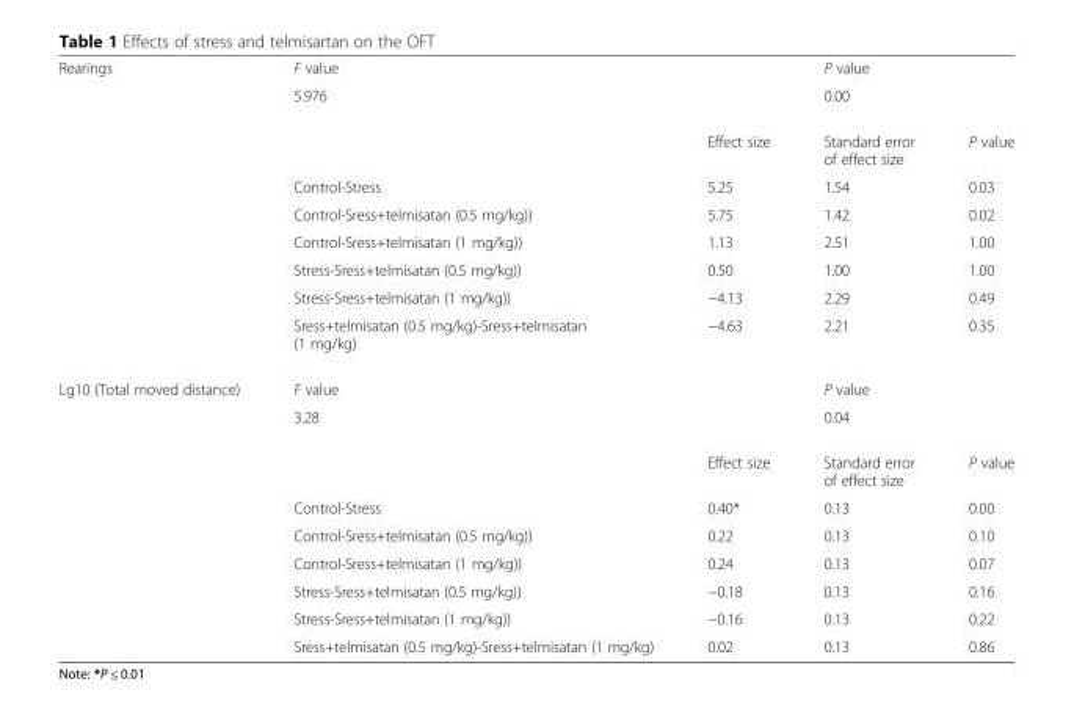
<table><tbody><tr><td rowspan="9">Rearings</td><td colspan="2">F value</td><td colspan="2">P value</td></tr><tr><td>5.976</td><td></td><td colspan="2">0.00</td></tr><tr><td></td><td>Effect size</td><td>Standard error of effect size</td><td>P value</td></tr><tr><td>Control-Stress</td><td>5.25</td><td>1.54</td><td>0.03</td></tr><tr><td>Control-Sress+telmisatan (0.5 mg/kg))</td><td>5.75</td><td>1.42</td><td>0.02</td></tr><tr><td>Control-Sress+telmisatan (1 mg/kg))</td><td>1.13</td><td>2.51</td><td>1.00</td></tr><tr><td>Stress-Sress+telmisatan (0.5 mg/kg))</td><td>0.50</td><td>1.00</td><td>1.00</td></tr><tr><td>Stress-Sress+telmisatan (1 mg/kg))</td><td>−4.13</td><td>2.29</td><td>0.49</td></tr><tr><td>Sress+telmisatan (0.5 mg/kg)-Sress+telmisatan (1 mg/kg)</td><td>−4.63</td><td>2.21</td><td>0.35</td></tr><tr><td rowspan="9">Lg10 (Total moved distance)</td><td colspan="2">F value</td><td colspan="2">P value</td></tr><tr><td>3.28</td><td></td><td>0.04</td><td></td></tr><tr><td></td><td>Effect size</td><td>Standard error of effect size</td><td>P value</td></tr><tr><td>Control-Stress</td><td>0.40*</td><td>0.13</td><td>0.00</td></tr><tr><td>Control-Sress+telmisatan (0.5 mg/kg))</td><td>0.22</td><td>0.13</td><td>0.10</td></tr><tr><td>Control-Sress+telmisatan (1 mg/kg))</td><td>0.24</td><td>0.13</td><td>0.07</td></tr><tr><td>Stress-Sress+telmisatan (0.5 mg/kg))</td><td>−0.18</td><td>0.13</td><td>0.16</td></tr><tr><td>Stress-Sress+telmisatan (1 mg/kg))</td><td>−0.16</td><td>0.13</td><td>0.22</td></tr><tr><td>Sress+telmisatan (0.5 mg/kg)-Sress+telmisatan (1 mg/kg)</td><td>0.02</td><td>0.13</td><td>0.86</td></tr></tbody></table>